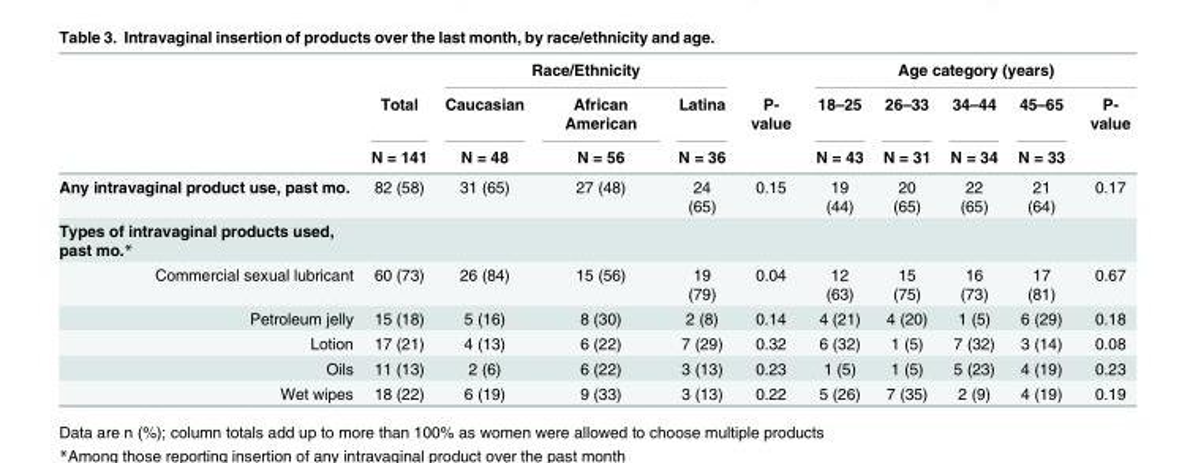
<table><thead><tr><td rowspan="3"></td><td rowspan="3">Total N = 141</td><td colspan="3">Race/Ethnicity</td><td rowspan="3">P- value</td><td colspan="5">Age category (years)</td></tr><tr><td rowspan="2">Caucasian N = 48</td><td rowspan="2">African American N = 56</td><td rowspan="2">Latina N = 36</td><td rowspan="2">18–25 N = 43</td><td rowspan="2">26–33 N = 31</td><td rowspan="2">34–44 N = 34</td><td rowspan="2">45–65 N = 33</td><td rowspan="2">P- value</td></tr><tr></tr></thead><tbody><tr><td>Any intravaginal product use, past mo.</td><td>82 (58)</td><td>31 (65)</td><td>27 (48)</td><td>24 (65)</td><td>0.15</td><td>19 (44)</td><td>20 (65)</td><td>22 (65)</td><td>21 (64)</td><td>0.17</td></tr><tr><td colspan="11">Types of intravaginal products used, past mo.*</td></tr><tr><td>Commercial sexual lubricant</td><td>60 (73)</td><td>26 (84)</td><td>15 (56)</td><td>19 (79)</td><td>0.04</td><td>12 (63)</td><td>15 (75)</td><td>16 (73)</td><td>17 (81)</td><td>0.67</td></tr><tr><td>Petroleum jelly</td><td>15 (18)</td><td>5 (16)</td><td>8 (30)</td><td>2 (8)</td><td>0.14</td><td>4 (21)</td><td>4 (20)</td><td>1 (5)</td><td>6 (29)</td><td>0.18</td></tr><tr><td>Lotion</td><td>17 (21)</td><td>4 (13)</td><td>6 (22)</td><td>7 (29)</td><td>0.32</td><td>6 (32)</td><td>1 (5)</td><td>7 (32)</td><td>3 (14)</td><td>0.08</td></tr><tr><td>Oils</td><td>11 (13)</td><td>2 (6)</td><td>6 (22)</td><td>3 (13)</td><td>0.23</td><td>1 (5)</td><td>1 (5)</td><td>5 (23)</td><td>4 (19)</td><td>0.23</td></tr><tr><td>Wet wipes</td><td>18 (22)</td><td>6 (19)</td><td>9 (33)</td><td>3 (13)</td><td>0.22</td><td>5 (26)</td><td>7 (35)</td><td>2 (9)</td><td>4 (19)</td><td>0.19</td></tr></tbody></table>